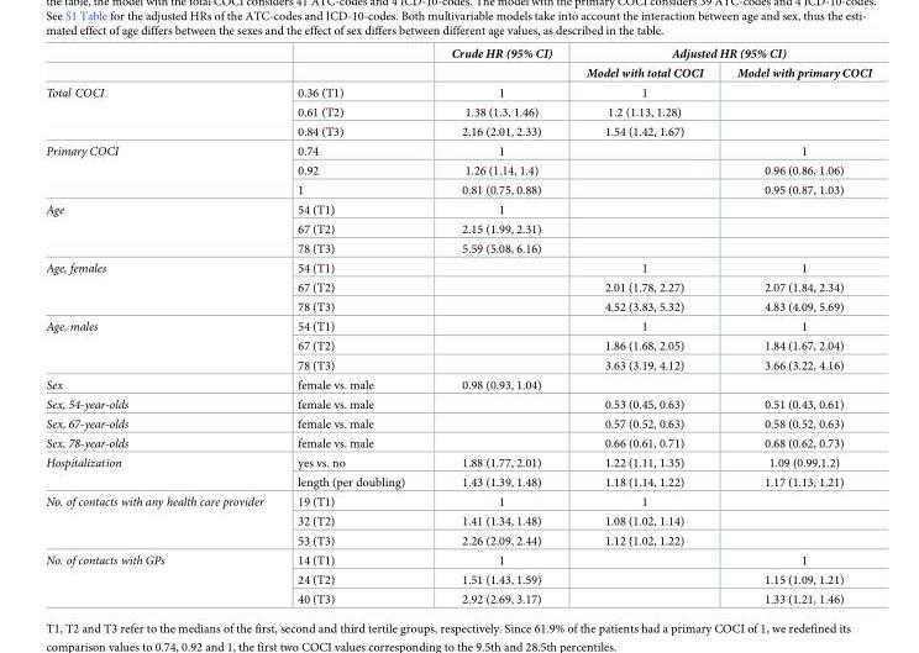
<table><thead><tr><td rowspan="2"></td><td rowspan="2"></td><td rowspan="2">Crude HR (95% CI)</td><td colspan="2">Adjusted HR (95% CI)</td></tr><tr><td>Model with total COCI</td><td>Model with primary COCI</td></tr></thead><tbody><tr><td rowspan="3">Total COCI</td><td>0.36 (T1)</td><td>1</td><td>1</td><td></td></tr><tr><td>0.61 (T2)</td><td>1.38 (1.3, 1.46)</td><td>1.2 (1.13, 1.28)</td><td></td></tr><tr><td>0.84 (T3)</td><td>2.16 (2.01, 2.33)</td><td>1.54 (1.42, 1.67)</td><td></td></tr><tr><td rowspan="3">Primary COCI</td><td>0.74</td><td>1</td><td></td><td>1</td></tr><tr><td>0.92</td><td>1.26 (1.14, 1.4)</td><td></td><td>0.96 (0.86, 1.06)</td></tr><tr><td>1</td><td>0.81 (0.75, 0.88)</td><td></td><td>0.95 (0.87, 1.03)</td></tr><tr><td rowspan="3">Age</td><td>54 (T1)</td><td>1</td><td></td><td></td></tr><tr><td>67 (T2)</td><td>2.15 (1.99, 2.31)</td><td></td><td></td></tr><tr><td>78 (T3)</td><td>5.59 (5.08, 6.16)</td><td></td><td></td></tr><tr><td rowspan="3">Age, females</td><td>54 (T1)</td><td></td><td>1</td><td>1</td></tr><tr><td>67 (T2)</td><td></td><td>2.01 (1.78, 2.27)</td><td>2.07 (1.84, 2.34)</td></tr><tr><td>78 (T3)</td><td></td><td>4.52 (3.83, 5.32)</td><td>4.83 (4.09, 5.69)</td></tr><tr><td rowspan="3">Age, males</td><td>54 (T1)</td><td></td><td>1</td><td>1</td></tr><tr><td>67 (T2)</td><td></td><td>1.86 (1.68, 2.05)</td><td>1.84 (1.67, 2.04)</td></tr><tr><td>78 (T3)</td><td></td><td>3.63 (3.19, 4.12)</td><td>3.66 (3.22, 4.16)</td></tr><tr><td>Sex</td><td>female vs. male</td><td>0.98 (0.93, 1.04)</td><td></td><td></td></tr><tr><td>Sex, 54-year-olds</td><td>female vs. male</td><td></td><td>0.53 (0.45, 0.63)</td><td>0.51 (0.43, 0.61)</td></tr><tr><td>Sex, 67-year-olds</td><td>female vs. male</td><td></td><td>0.57 (0.52, 0.63)</td><td>0.58 (0.52, 0.63)</td></tr><tr><td>Sex, 78-year-olds</td><td>female vs. male</td><td></td><td>0.66 (0.61, 0.71)</td><td>0.68 (0.62, 0.73)</td></tr><tr><td rowspan="2">Hospitalization</td><td>yes vs. no</td><td>1.88 (1.77, 2.01)</td><td>1.22 (1.11, 1.35)</td><td>1.09 (0.99,1.2)</td></tr><tr><td>length (per doubling)</td><td>1.43 (1.39, 1.48)</td><td>1.18 (1.14, 1.22)</td><td>1.17 (1.13, 1.21)</td></tr><tr><td rowspan="3">No. of contacts with any health care provider</td><td>19 (T1)</td><td>1</td><td>1</td><td></td></tr><tr><td>32 (T2)</td><td>1.41 (1.34, 1.48)</td><td>1.08 (1.02, 1.14)</td><td></td></tr><tr><td>53 (T3)</td><td>2.26 (2.09, 2.44)</td><td>1.12 (1.02, 1.22)</td><td></td></tr><tr><td rowspan="3">No. of contacts with GPs</td><td>14 (T1)</td><td>1</td><td></td><td>1</td></tr><tr><td>24 (T2)</td><td>1.51 (1.43, 1.59)</td><td></td><td>1.15 (1.09, 1.21)</td></tr><tr><td>40 (T3)</td><td>2.92 (2.69, 3.17)</td><td></td><td>1.33 (1.21, 1.46)</td></tr></tbody></table>